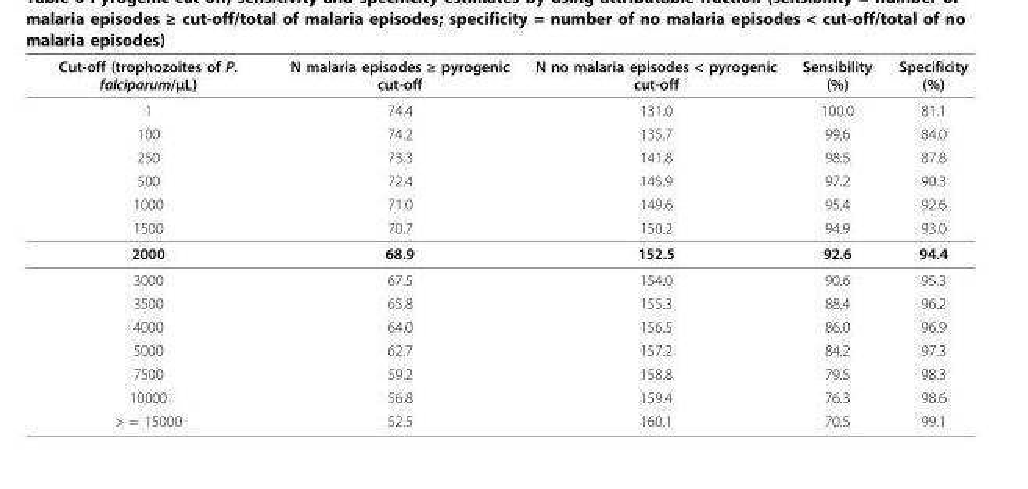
<table><thead><tr><td>Cut-off (trophozoites of P. falciparum/μL)</td><td>N malaria episodes ≥ pyrogenic cut-off</td><td>N no malaria episodes &lt; pyrogenic cut-off</td><td>Sensibility (%)</td><td>Specificity (%)</td></tr></thead><tbody><tr><td>1</td><td>74.4</td><td>131.0</td><td>100.0</td><td>81.1</td></tr><tr><td>100</td><td>74.2</td><td>135.7</td><td>99.6</td><td>84.0</td></tr><tr><td>250</td><td>73.3</td><td>141.8</td><td>98.5</td><td>87.8</td></tr><tr><td>500</td><td>72.4</td><td>145.9</td><td>97.2</td><td>90.3</td></tr><tr><td>1000</td><td>71.0</td><td>149.6</td><td>95.4</td><td>92.6</td></tr><tr><td>1500</td><td>70.7</td><td>150.2</td><td>94.9</td><td>93.0</td></tr><tr><td>2000</td><td>68.9</td><td>152.5</td><td>92.6</td><td>94.4</td></tr><tr><td>3000</td><td>67.5</td><td>154.0</td><td>90.6</td><td>95.3</td></tr><tr><td>3500</td><td>65.8</td><td>155.3</td><td>88.4</td><td>96.2</td></tr><tr><td>4000</td><td>64.0</td><td>156.5</td><td>86.0</td><td>96.9</td></tr><tr><td>5000</td><td>62.7</td><td>157.2</td><td>84.2</td><td>97.3</td></tr><tr><td>7500</td><td>59.2</td><td>158.8</td><td>79.5</td><td>98.3</td></tr><tr><td>10000</td><td>56.8</td><td>159.4</td><td>76.3</td><td>98.6</td></tr><tr><td>&gt; = 15000</td><td>52.5</td><td>160.1</td><td>70.5</td><td>99.1</td></tr></tbody></table>